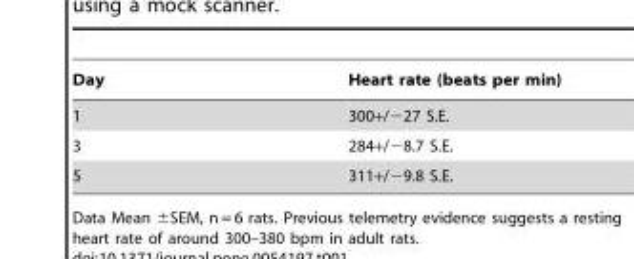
<table><thead><tr><td>Day</td><td>Heart rate (beats per min)</td></tr></thead><tbody><tr><td>1</td><td>300+/−27 S.E.</td></tr><tr><td>3</td><td>284+/−8.7 S.E.</td></tr><tr><td>5</td><td>311+/−9.8 S.E.</td></tr></tbody></table>